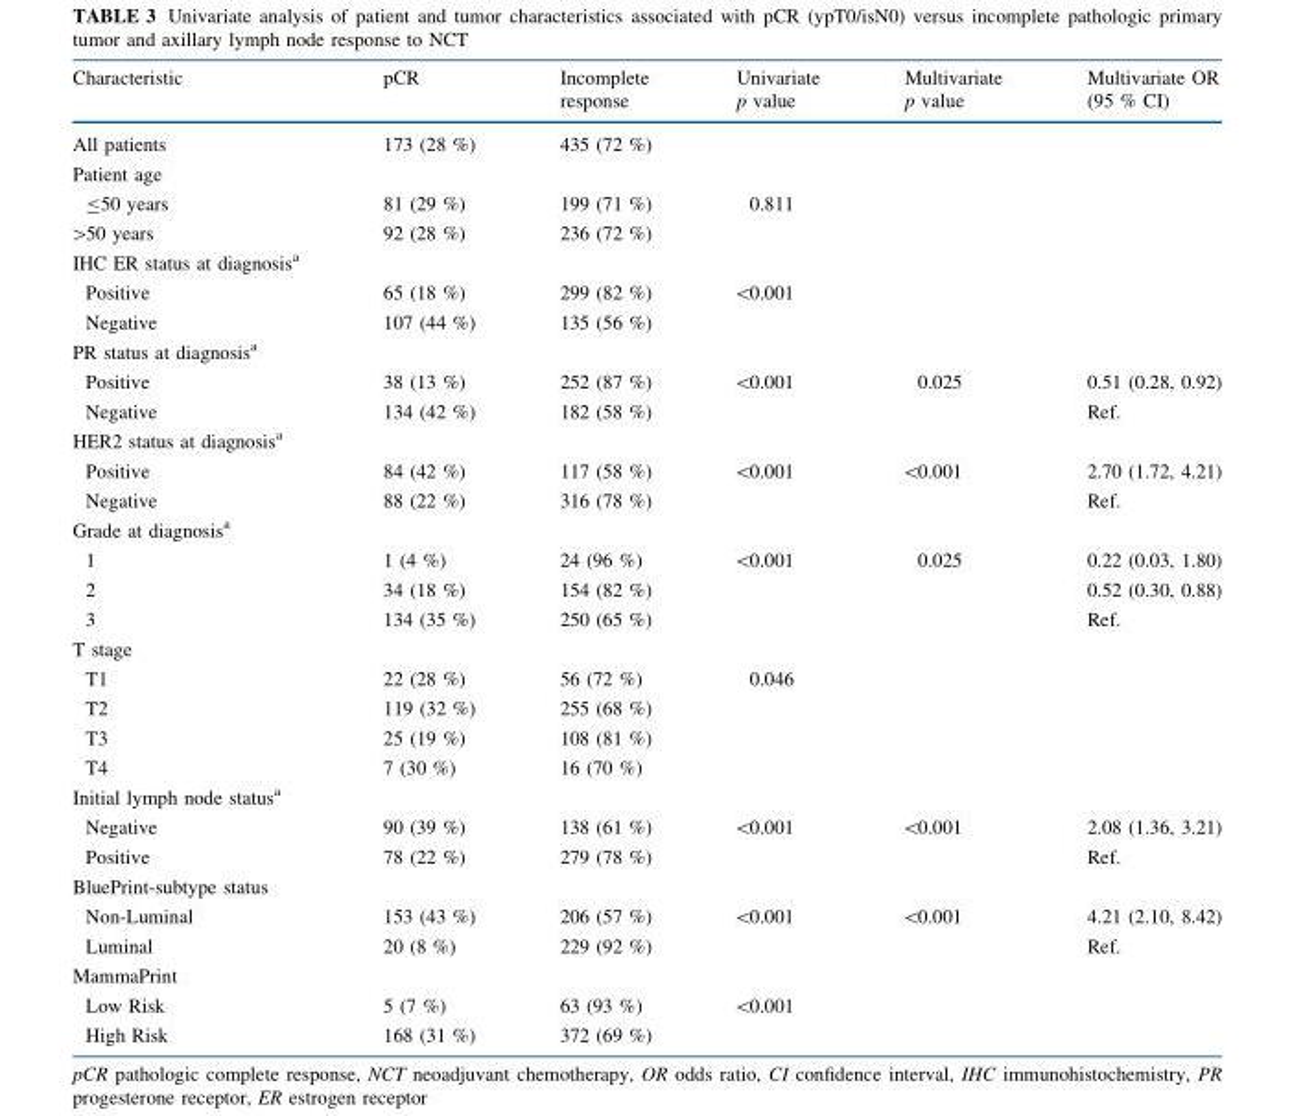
<table><thead><tr><td>Characteristic</td><td>pCR</td><td>Incomplete response</td><td>Univariate p value</td><td>Multivariate p value</td><td>Multivariate OR (95 % CI)</td></tr></thead><tbody><tr><td>All patients</td><td>173 (28 %)</td><td>435 (72 %)</td><td></td><td></td><td></td></tr><tr><td colspan="6">Patient age</td></tr><tr><td>≤50 years</td><td>81 (29 %)</td><td>199 (71 %)</td><td>0.811</td><td></td><td></td></tr><tr><td>&gt;50 years</td><td>92 (28 %)</td><td>236 (72 %)</td><td></td><td></td><td></td></tr><tr><td colspan="6">IHC ER status at diagnosis<sup>a</sup></td></tr><tr><td>Positive</td><td>65 (18 %)</td><td>299 (82 %)</td><td>&lt;0.001</td><td></td><td></td></tr><tr><td>Negative</td><td>107 (44 %)</td><td>135 (56 %)</td><td></td><td></td><td></td></tr><tr><td colspan="6">PR status at diagnosis<sup>a</sup></td></tr><tr><td>Positive</td><td>38 (13 %)</td><td>252 (87 %)</td><td>&lt;0.001</td><td>0.025</td><td>0.51 (0.28, 0.92)</td></tr><tr><td>Negative</td><td>134 (42 %)</td><td>182 (58 %)</td><td></td><td></td><td>Ref.</td></tr><tr><td colspan="6">HER2 status at diagnosis<sup>a</sup></td></tr><tr><td>Positive</td><td>84 (42 %)</td><td>117 (58 %)</td><td>&lt;0.001</td><td>&lt;0.001</td><td>2.70 (1.72, 4.21)</td></tr><tr><td>Negative</td><td>88 (22 %)</td><td>316 (78 %)</td><td></td><td></td><td>Ref.</td></tr><tr><td colspan="6">Grade at diagnosis<sup>a</sup></td></tr><tr><td>1</td><td>1 (4 %)</td><td>24 (96 %)</td><td>&lt;0.001</td><td>0.025</td><td>0.22 (0.03, 1.80)</td></tr><tr><td>2</td><td>34 (18 %)</td><td>154 (82 %)</td><td></td><td></td><td>0.52 (0.30, 0.88)</td></tr><tr><td>3</td><td>134 (35 %)</td><td>250 (65 %)</td><td></td><td></td><td>Ref.</td></tr><tr><td colspan="6">T stage</td></tr><tr><td>T1</td><td>22 (28 %)</td><td>56 (72 %)</td><td>0.046</td><td></td><td></td></tr><tr><td>T2</td><td>119 (32 %)</td><td>255 (68 %)</td><td></td><td></td><td></td></tr><tr><td>T3</td><td>25 (19 %)</td><td>108 (81 %)</td><td></td><td></td><td></td></tr><tr><td>T4</td><td>7 (30 %)</td><td>16 (70 %)</td><td></td><td></td><td></td></tr><tr><td colspan="6">Initial lymph node status<sup>a</sup></td></tr><tr><td>Negative</td><td>90 (39 %)</td><td>138 (61 %)</td><td>&lt;0.001</td><td>&lt;0.001</td><td>2.08 (1.36, 3.21)</td></tr><tr><td>Positive</td><td>78 (22 %)</td><td>279 (78 %)</td><td></td><td></td><td>Ref.</td></tr><tr><td colspan="6">BluePrint-subtype status</td></tr><tr><td>Non-Luminal</td><td>153 (43 %)</td><td>206 (57 %)</td><td>&lt;0.001</td><td>&lt;0.001</td><td>4.21 (2.10, 8.42)</td></tr><tr><td>Luminal</td><td>20 (8 %)</td><td>229 (92 %)</td><td></td><td></td><td>Ref.</td></tr><tr><td colspan="6">MammaPrint</td></tr><tr><td>Low Risk</td><td>5 (7 %)</td><td>63 (93 %)</td><td>&lt;0.001</td><td></td><td></td></tr><tr><td>High Risk</td><td>168 (31 %)</td><td>372 (69 %)</td><td></td><td></td><td></td></tr></tbody></table>